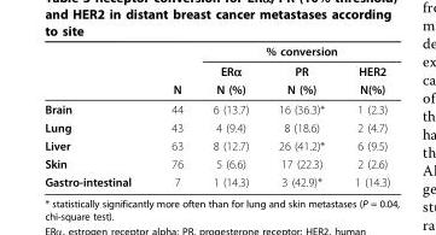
<table><thead><tr><td rowspan="3"></td><td rowspan="3">N</td><td colspan="3">% conversion</td></tr><tr><td rowspan="2">ERα N (%)</td><td rowspan="2">PR N (%)</td><td rowspan="2">HER2 N(%)</td></tr><tr></tr></thead><tbody><tr><td>Brain</td><td>44</td><td>6 (13.7)</td><td>16 (36.3)*</td><td>1 (2.3)</td></tr><tr><td>Lung</td><td>43</td><td>4 (9.4)</td><td>8 (18.6)</td><td>2 (4.7)</td></tr><tr><td>Liver</td><td>63</td><td>8 (12.7)</td><td>26 (41.2)*</td><td>6 (9.5)</td></tr><tr><td>Skin</td><td>76</td><td>5 (6.6)</td><td>17 (22.3)</td><td>2 (2.6)</td></tr><tr><td>Gastro-intestinal</td><td>7</td><td>1 (14.3)</td><td>3 (42.9)*</td><td>1 (14.3)</td></tr></tbody></table>